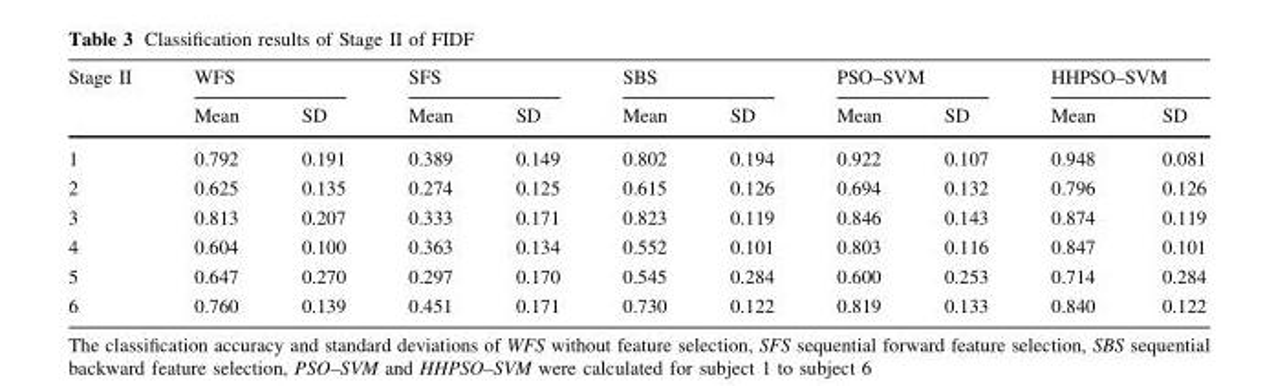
<table><thead><tr><td rowspan="2">Stage II</td><td colspan="2">WFS</td><td colspan="2">SFS</td><td colspan="2">SBS</td><td colspan="2">PSO–SVM</td><td colspan="2">HHPSO–SVM</td></tr><tr><td>Mean</td><td>SD</td><td>Mean</td><td>SD</td><td>Mean</td><td>SD</td><td>Mean</td><td>SD</td><td>Mean</td><td>SD</td></tr></thead><tbody><tr><td>1</td><td>0.792</td><td>0.191</td><td>0.389</td><td>0.149</td><td>0.802</td><td>0.194</td><td>0.922</td><td>0.107</td><td>0.948</td><td>0.081</td></tr><tr><td>2</td><td>0.625</td><td>0.135</td><td>0.274</td><td>0.125</td><td>0.615</td><td>0.126</td><td>0.694</td><td>0.132</td><td>0.796</td><td>0.126</td></tr><tr><td>3</td><td>0.813</td><td>0.207</td><td>0.333</td><td>0.171</td><td>0.823</td><td>0.119</td><td>0.846</td><td>0.143</td><td>0.874</td><td>0.119</td></tr><tr><td>4</td><td>0.604</td><td>0.100</td><td>0.363</td><td>0.134</td><td>0.552</td><td>0.101</td><td>0.803</td><td>0.116</td><td>0.847</td><td>0.101</td></tr><tr><td>5</td><td>0.647</td><td>0.270</td><td>0.297</td><td>0.170</td><td>0.545</td><td>0.284</td><td>0.600</td><td>0.253</td><td>0.714</td><td>0.284</td></tr><tr><td>6</td><td>0.760</td><td>0.139</td><td>0.451</td><td>0.171</td><td>0.730</td><td>0.122</td><td>0.819</td><td>0.133</td><td>0.840</td><td>0.122</td></tr></tbody></table>